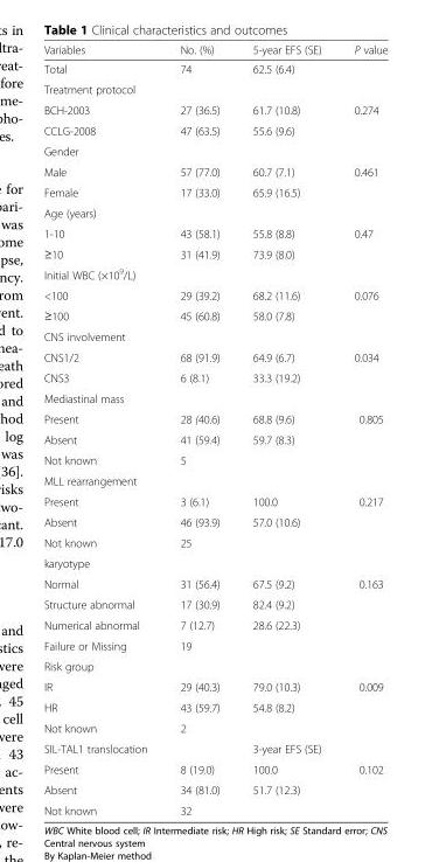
<table><thead><tr><td>Variables</td><td>No. (%)</td><td>5-year EFS (SE)</td><td>P value</td></tr></thead><tbody><tr><td>Total</td><td>74</td><td>62.5 (6.4)</td><td></td></tr><tr><td colspan="4">Treatment protocol</td></tr><tr><td>BCH-2003</td><td>27 (36.5)</td><td>61.7 (10.8)</td><td rowspan="2">0.274</td></tr><tr><td>CCLG-2008</td><td>47 (63.5)</td><td>55.6 (9.6)</td></tr><tr><td colspan="4">Gender</td></tr><tr><td>Male</td><td>57 (77.0)</td><td>60.7 (7.1)</td><td rowspan="2">0.461</td></tr><tr><td>Female</td><td>17 (33.0)</td><td>65.9 (16.5)</td></tr><tr><td colspan="4">Age (years)</td></tr><tr><td>1-10</td><td>43 (58.1)</td><td>55.8 (8.8)</td><td rowspan="2">0.47</td></tr><tr><td>≥10</td><td>31 (41.9)</td><td>73.9 (8.0)</td></tr><tr><td colspan="4">Initial WBC (×10<sup>9</sup>/L)</td></tr><tr><td>&lt;100</td><td>29 (39.2)</td><td>68.2 (11.6)</td><td rowspan="2">0.076</td></tr><tr><td>≥100</td><td>45 (60.8)</td><td>58.0 (7.8)</td></tr><tr><td colspan="4">CNS involvement</td></tr><tr><td>CNS1/2</td><td>68 (91.9)</td><td>64.9 (6.7)</td><td rowspan="2">0.034</td></tr><tr><td>CNS3</td><td>6 (8.1)</td><td>33.3 (19.2)</td></tr><tr><td colspan="4">Mediastinal mass</td></tr><tr><td>Present</td><td>28 (40.6)</td><td>68.8 (9.6)</td><td rowspan="3">0.805</td></tr><tr><td>Absent</td><td>41 (59.4)</td><td>59.7 (8.3)</td></tr><tr><td>Not known</td><td>5</td><td></td></tr><tr><td colspan="4">MLL rearrangement</td></tr><tr><td>Present</td><td>3 (6.1)</td><td>100.0</td><td rowspan="3">0.217</td></tr><tr><td>Absent</td><td>46 (93.9)</td><td>57.0 (10.6)</td></tr><tr><td>Not known</td><td>25</td><td></td></tr><tr><td colspan="4">karyotype</td></tr><tr><td>Normal</td><td>31 (56.4)</td><td>67.5 (9.2)</td><td rowspan="4">0.163</td></tr><tr><td>Structure abnormal</td><td>17 (30.9)</td><td>82.4 (9.2)</td></tr><tr><td>Numerical abnormal</td><td>7 (12.7)</td><td>28.6 (22.3)</td></tr><tr><td>Failure or Missing</td><td>19</td><td></td></tr><tr><td colspan="4">Risk group</td></tr><tr><td>IR</td><td>29 (40.3)</td><td>79.0 (10.3)</td><td rowspan="3">0.009</td></tr><tr><td>HR</td><td>43 (59.7)</td><td>54.8 (8.2)</td></tr><tr><td>Not known</td><td>2</td><td></td></tr><tr><td>SIL-TAL1 translocation</td><td></td><td>3-year EFS (SE)</td><td></td></tr><tr><td>Present</td><td>8 (19.0)</td><td>100.0</td><td rowspan="3">0.102</td></tr><tr><td>Absent</td><td>34 (81.0)</td><td>51.7 (12.3)</td></tr><tr><td>Not known</td><td>32</td><td></td></tr></tbody></table>